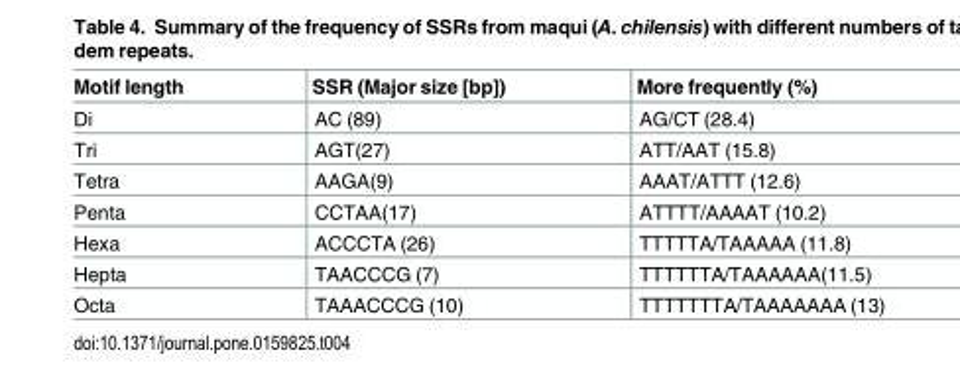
<table><thead><tr><td>Motif length</td><td>SSR (Major size [bp])</td><td>More frequently (%)</td></tr></thead><tbody><tr><td>Di</td><td>AC (89)</td><td>AG/CT (28.4)</td></tr><tr><td>Tri</td><td>AGT(27)</td><td>ATT/AAT (15.8)</td></tr><tr><td>Tetra</td><td>AAGA(9)</td><td>AAAT/ATTT (12.6)</td></tr><tr><td>Penta</td><td>CCTAA(17)</td><td>ATTTT/AAAAT (10.2)</td></tr><tr><td>Hexa</td><td>ACCCTA (26)</td><td>TTTTTA/TAAAAA (11.8)</td></tr><tr><td>Hepta</td><td>TAACCCG (7)</td><td>TTTTTTA/TAAAAAA(11.5)</td></tr><tr><td>Octa</td><td>TAAACCCG (10)</td><td>TTTTTTTA/TAAAAAAA (13)</td></tr></tbody></table>